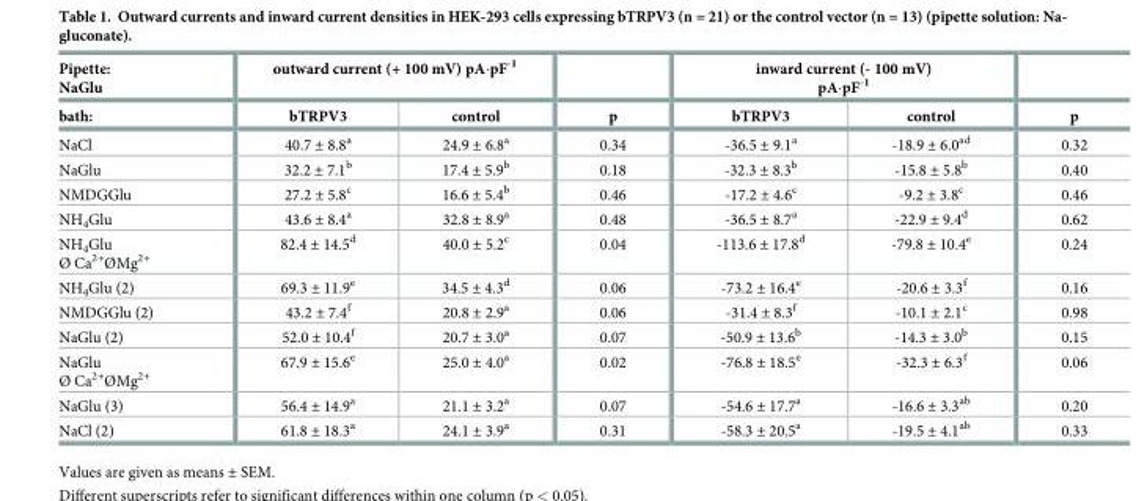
<table><thead><tr><td rowspan="2">Pipette: NaGlu bath:</td><td colspan="2">outward current (+ 100 mV) pA∙pF<sup>-1</sup></td><td rowspan="2">p</td><td colspan="2">inward current (- 100 mV) pA∙pF<sup>-1</sup></td><td rowspan="2">p</td></tr><tr><td>bTRPV3</td><td>control</td><td>bTRPV3</td><td>control</td></tr></thead><tbody><tr><td>NaCl</td><td>40.7 ± 8.8<sup>a</sup></td><td>24.9 ± 6.8<sup>a</sup></td><td>0.34</td><td>-36.5 ± 9.1<sup>a</sup></td><td>-18.9 ± 6.0<sup>ad</sup></td><td>0.32</td></tr><tr><td>NaGlu</td><td>32.2 ± 7.1<sup>b</sup></td><td>17.4 ± 5.9<sup>b</sup></td><td>0.18</td><td>-32.3 ± 8.3<sup>b</sup></td><td>-15.8 ± 5.8<sup>b</sup></td><td>0.40</td></tr><tr><td>NMDGGlu</td><td>27.2 ± 5.8<sup>c</sup></td><td>16.6 ± 5.4<sup>b</sup></td><td>0.46</td><td>-17.2 ± 4.6<sup>c</sup></td><td>-9.2 ± 3.8<sup>c</sup></td><td>0.46</td></tr><tr><td>NH<sub>4</sub>Glu</td><td>43.6 ± 8.4<sup>a</sup></td><td>32.8 ± 8.9<sup>a</sup></td><td>0.48</td><td>-36.5 ± 8.7<sup>a</sup></td><td>-22.9 ± 9.4<sup>d</sup></td><td>0.62</td></tr><tr><td>NH4Glu Ø Ca2+ØMg2+</td><td>82.4 ± 14.5<sup>d</sup></td><td>40.0 ± 5.2<sup>c</sup></td><td>0.04</td><td>-113.6 ± 17.8<sup>d</sup></td><td>-79.8 ± 10.4<sup>e</sup></td><td>0.24</td></tr><tr><td>NH<sub>4</sub>Glu (2)</td><td>69.3 ± 11.9<sup>e</sup></td><td>34.5 ± 4.3<sup>d</sup></td><td>0.06</td><td>-73.2 ± 16.4<sup>e</sup></td><td>-20.6 ± 3.3<sup>f</sup></td><td>0.16</td></tr><tr><td>NMDGGlu (2)</td><td>43.2 ± 7.4<sup>f</sup></td><td>20.8 ± 2.9<sup>a</sup></td><td>0.06</td><td>-31.4 ± 8.3<sup>f</sup></td><td>-10.1 ± 2.1<sup>c</sup></td><td>0.98</td></tr><tr><td>NaGlu (2)</td><td>52.0 ± 10.4<sup>f</sup></td><td>20.7 ± 3.0<sup>a</sup></td><td>0.07</td><td>-50.9 ± 13.6<sup>b</sup></td><td>-14.3 ± 3.0<sup>b</sup></td><td>0.15</td></tr><tr><td>NaGlu Ø Ca2+ØMg2+</td><td>67.9 ± 15.6<sup>e</sup></td><td>25.0 ± 4.0<sup>a</sup></td><td>0.02</td><td>-76.8 ± 18.5<sup>e</sup></td><td>-32.3 ± 6.3<sup>f</sup></td><td>0.06</td></tr><tr><td>NaGlu (3)</td><td>56.4 ± 14.9<sup>a</sup></td><td>21.1 ± 3.2<sup>a</sup></td><td>0.07</td><td>-54.6 ± 17.7<sup>a</sup></td><td>-16.6 ± 3.3<sup>ab</sup></td><td>0.20</td></tr><tr><td>NaCl (2)</td><td>61.8 ± 18.3<sup>a</sup></td><td>24.1 ± 3.9<sup>a</sup></td><td>0.31</td><td>-58.3 ± 20.5<sup>a</sup></td><td>-19.5 ± 4.1<sup>ab</sup></td><td>0.33</td></tr></tbody></table>